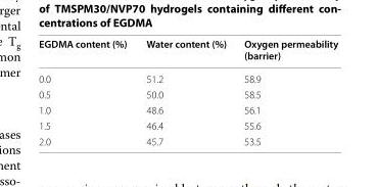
<table><thead><tr><td>EGDMA content (%)</td><td>Water content (%)</td><td>Oxygen permeability (barrier)</td></tr></thead><tbody><tr><td>0.0</td><td>51.2</td><td>58.9</td></tr><tr><td>0.5</td><td>50.0</td><td>58.5</td></tr><tr><td>1.0</td><td>48.6</td><td>56.1</td></tr><tr><td>1.5</td><td>46.4</td><td>55.6</td></tr><tr><td>2.0</td><td>45.7</td><td>53.5</td></tr></tbody></table>